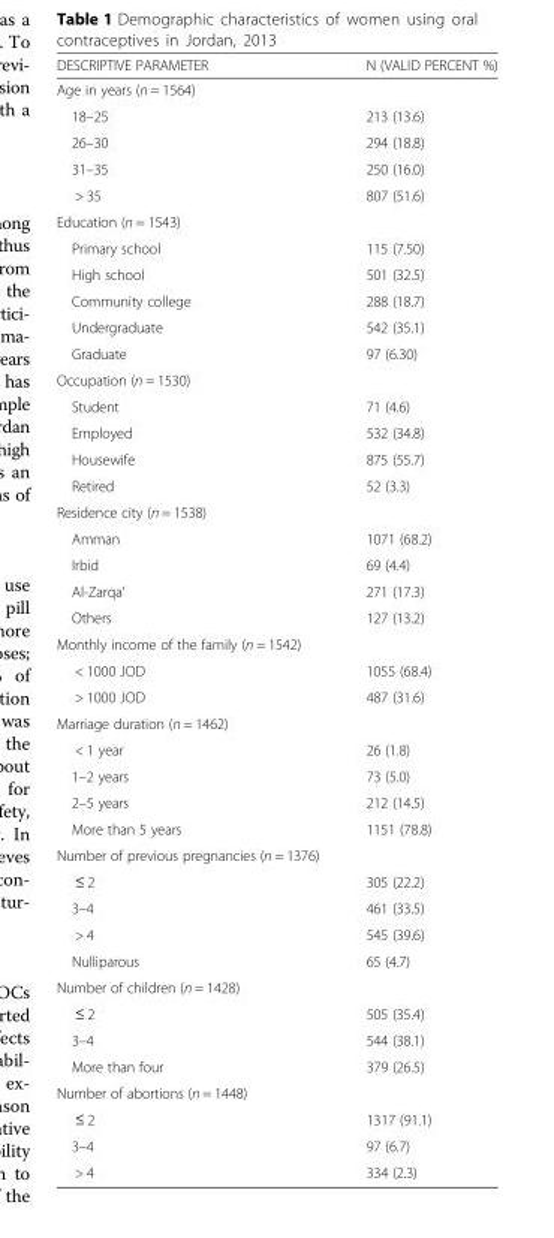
<table><thead><tr><td>DESCRIPTIVE PARAMETER</td><td>N (VALID PERCENT %)</td></tr></thead><tbody><tr><td colspan="2">Age in years (n = 1564)</td></tr><tr><td>18–25</td><td>213 (13.6)</td></tr><tr><td>26–30</td><td>294 (18.8)</td></tr><tr><td>31–35</td><td>250 (16.0)</td></tr><tr><td>&gt; 35</td><td>807 (51.6)</td></tr><tr><td colspan="2">Education (n = 1543)</td></tr><tr><td>Primary school</td><td>115 (7.50)</td></tr><tr><td>High school</td><td>501 (32.5)</td></tr><tr><td>Community college</td><td>288 (18.7)</td></tr><tr><td>Undergraduate</td><td>542 (35.1)</td></tr><tr><td>Graduate</td><td>97 (6.30)</td></tr><tr><td colspan="2">Occupation (n = 1530)</td></tr><tr><td>Student</td><td>71 (4.6)</td></tr><tr><td>Employed</td><td>532 (34.8)</td></tr><tr><td>Housewife</td><td>875 (55.7)</td></tr><tr><td>Retired</td><td>52 (3.3)</td></tr><tr><td colspan="2">Residence city (n = 1538)</td></tr><tr><td>Amman</td><td>1071 (68.2)</td></tr><tr><td>Irbid</td><td>69 (4.4)</td></tr><tr><td>Al-Zarqa’</td><td>271 (17.3)</td></tr><tr><td>Others</td><td>127 (13.2)</td></tr><tr><td colspan="2">Monthly income of the family (n = 1542)</td></tr><tr><td>&lt; 1000 JOD</td><td>1055 (68.4)</td></tr><tr><td>&gt; 1000 JOD</td><td>487 (31.6)</td></tr><tr><td colspan="2">Marriage duration (n = 1462)</td></tr><tr><td>&lt; 1 year</td><td>26 (1.8)</td></tr><tr><td>1–2 years</td><td>73 (5.0)</td></tr><tr><td>2–5 years</td><td>212 (14.5)</td></tr><tr><td>More than 5 years</td><td>1151 (78.8)</td></tr><tr><td colspan="2">Number of previous pregnancies (n = 1376)</td></tr><tr><td>≤ 2</td><td>305 (22.2)</td></tr><tr><td>3–4</td><td>461 (33.5)</td></tr><tr><td>&gt; 4</td><td>545 (39.6)</td></tr><tr><td>Nulliparous</td><td>65 (4.7)</td></tr><tr><td colspan="2">Number of children (n = 1428)</td></tr><tr><td>≤ 2</td><td>505 (35.4)</td></tr><tr><td>3–4</td><td>544 (38.1)</td></tr><tr><td>More than four</td><td>379 (26.5)</td></tr><tr><td colspan="2">Number of abortions (n = 1448)</td></tr><tr><td>≤ 2</td><td>1317 (91.1)</td></tr><tr><td>3–4</td><td>97 (6.7)</td></tr><tr><td>&gt; 4</td><td>334 (2.3)</td></tr></tbody></table>